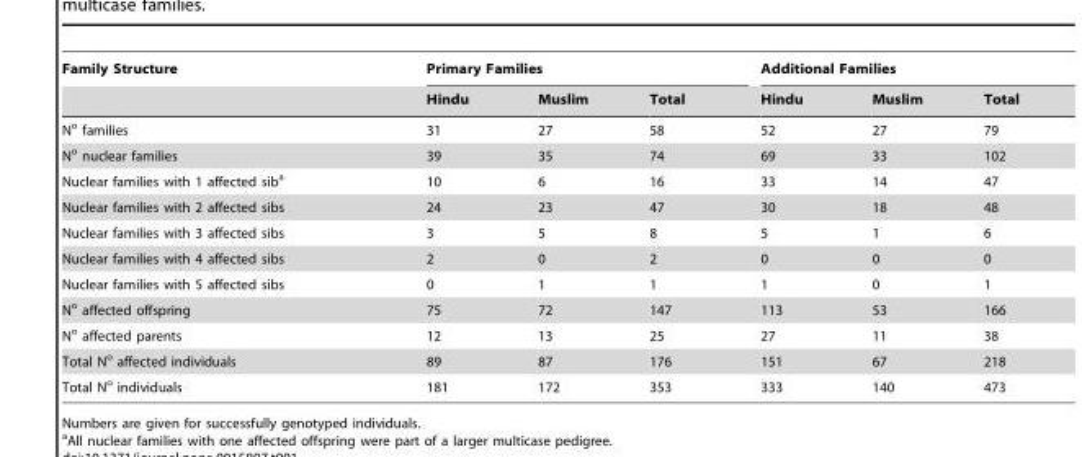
<table><thead><tr><td rowspan="2">Family Structure</td><td colspan="3">Primary Families</td><td colspan="3">Additional Families</td></tr><tr><td>Hindu</td><td>Muslim</td><td>Total</td><td>Hindu</td><td>Muslim</td><td>Total</td></tr></thead><tbody><tr><td>N<sup>o</sup> families</td><td>31</td><td>27</td><td>58</td><td>52</td><td>27</td><td>79</td></tr><tr><td>N<sup>o</sup> nuclear families</td><td>39</td><td>35</td><td>74</td><td>69</td><td>33</td><td>102</td></tr><tr><td>Nuclear families with 1 affected sib<sup>a</sup></td><td>10</td><td>6</td><td>16</td><td>33</td><td>14</td><td>47</td></tr><tr><td>Nuclear families with 2 affected sibs</td><td>24</td><td>23</td><td>47</td><td>30</td><td>18</td><td>48</td></tr><tr><td>Nuclear families with 3 affected sibs</td><td>3</td><td>5</td><td>8</td><td>5</td><td>1</td><td>6</td></tr><tr><td>Nuclear families with 4 affected sibs</td><td>2</td><td>0</td><td>2</td><td>0</td><td>0</td><td>0</td></tr><tr><td>Nuclear families with 5 affected sibs</td><td>0</td><td>1</td><td>1</td><td>1</td><td>0</td><td>1</td></tr><tr><td>N<sup>o</sup> affected offspring</td><td>75</td><td>72</td><td>147</td><td>113</td><td>53</td><td>166</td></tr><tr><td>N<sup>o</sup> affected parents</td><td>12</td><td>13</td><td>25</td><td>27</td><td>11</td><td>38</td></tr><tr><td>Total N<sup>o</sup> affected individuals</td><td>89</td><td>87</td><td>176</td><td>151</td><td>67</td><td>218</td></tr><tr><td>Total N<sup>o</sup> individuals</td><td>181</td><td>172</td><td>353</td><td>333</td><td>140</td><td>473</td></tr></tbody></table>